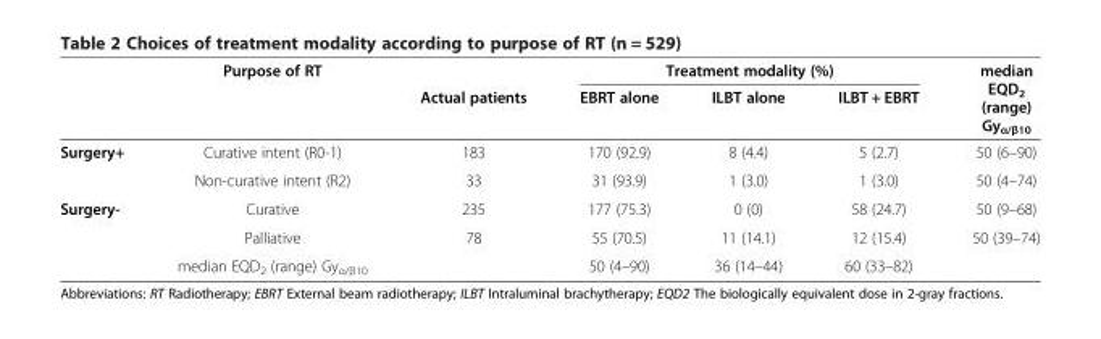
<table><thead><tr><td rowspan="2"></td><td rowspan="2">Purpose of RT</td><td rowspan="2">Actual patients</td><td colspan="3">Treatment modality (%)</td><td rowspan="2">median EQD2 (range) Gyα/β10</td></tr><tr><td>EBRT alone</td><td>ILBT alone</td><td>ILBT + EBRT</td></tr></thead><tbody><tr><td rowspan="2">Surgery+</td><td>Curative intent (R0-1)</td><td>183</td><td>170 (92.9)</td><td>8 (4.4)</td><td>5 (2.7)</td><td>50 (6–90)</td></tr><tr><td>Non-curative intent (R2)</td><td>33</td><td>31 (93.9)</td><td>1 (3.0)</td><td>1 (3.0)</td><td>50 (4–74)</td></tr><tr><td rowspan="3">Surgery-</td><td>Curative</td><td>235</td><td>177 (75.3)</td><td>0 (0)</td><td>58 (24.7)</td><td>50 (9–68)</td></tr><tr><td>Palliative</td><td>78</td><td>55 (70.5)</td><td>11 (14.1)</td><td>12 (15.4)</td><td>50 (39–74)</td></tr><tr><td>median EQD<sub>2</sub> (range) Gy<sub>α/β10</sub></td><td></td><td>50 (4–90)</td><td>36 (14–44)</td><td>60 (33–82)</td><td></td></tr></tbody></table>